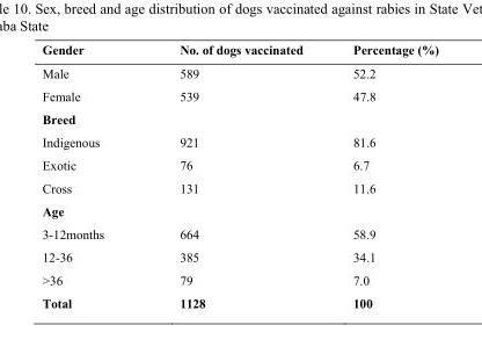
<table><thead><tr><td>Gender</td><td>No. of dogs vaccinated</td><td>Percentage (%)</td></tr></thead><tbody><tr><td>Male</td><td>589</td><td>52.2</td></tr><tr><td>Female</td><td>539</td><td>47.8</td></tr><tr><td colspan="3">Breed</td></tr><tr><td>Indigenous</td><td>921</td><td>81.6</td></tr><tr><td>Exotic</td><td>76</td><td>6.7</td></tr><tr><td>Cross</td><td>131</td><td>11.6</td></tr><tr><td colspan="3">Age</td></tr><tr><td>3-12months</td><td>664</td><td>58.9</td></tr><tr><td>12-36</td><td>385</td><td>34.1</td></tr><tr><td>&gt;36</td><td>79</td><td>7.0</td></tr><tr><td>Total</td><td>1128</td><td>100</td></tr></tbody></table>